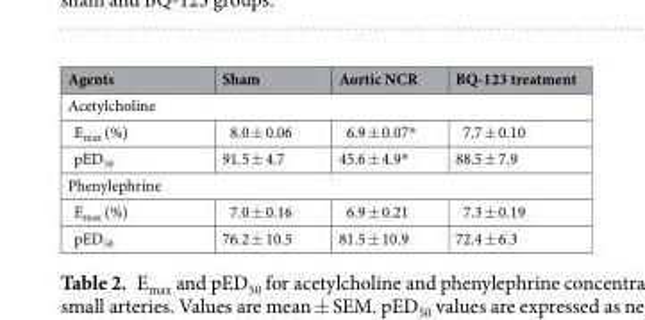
<table><thead><tr><td>Agents</td><td>Sham</td><td>Aortic NCR</td><td>BQ-123 treatment</td></tr></thead><tbody><tr><td colspan="4">Acetylcholine</td></tr><tr><td>E<sub>max</sub> (%)</td><td>8.0 ± 0.06</td><td>6.9 ± 0.07*</td><td>7.7 ± 0.10</td></tr><tr><td>pED<sub>50</sub></td><td>91.5 ± 4.7</td><td>45.6 ± 4.9*</td><td>88.5 ± 7.9</td></tr><tr><td colspan="4">Phenylephrine</td></tr><tr><td>E<sub>max</sub> (%)</td><td>7.0 ± 0.16</td><td>6.9 ± 0.21</td><td>7.3 ± 0.19</td></tr><tr><td>pED<sub>50</sub></td><td>76.2 ± 10.5</td><td>81.5 ± 10.9</td><td>72.4 ± 6.3</td></tr></tbody></table>